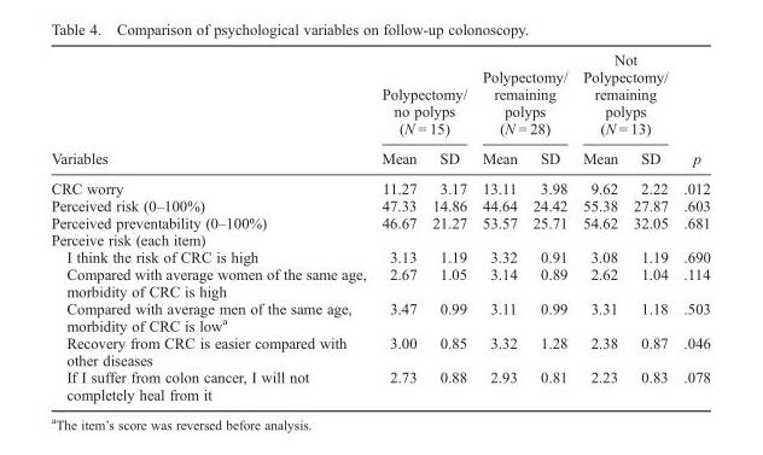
<table><thead><tr><td rowspan="2">Variables</td><td colspan="2">Polypectomy/ no polyps (N = 15)</td><td colspan="2">Polypectomy/ remaining polyps (N = 28)</td><td colspan="2">Not Polypectomy/ remaining polyps (N = 13)</td><td rowspan="2">p</td></tr><tr><td>Mean</td><td>SD</td><td>Mean</td><td>SD</td><td>Mean</td><td>SD</td></tr></thead><tbody><tr><td>CRC worry</td><td>11.27</td><td>3.17</td><td>13.11</td><td>3.98</td><td>9.62</td><td>2.22</td><td>.012</td></tr><tr><td>Perceived risk (0–100%)</td><td>47.33</td><td>14.86</td><td>44.64</td><td>24.42</td><td>55.38</td><td>27.87</td><td>.603</td></tr><tr><td>Perceived preventability (0–100%)</td><td>46.67</td><td>21.27</td><td>53.57</td><td>25.71</td><td>54.62</td><td>32.05</td><td>.681</td></tr><tr><td colspan="8">Perceive risk (each item)</td></tr><tr><td>I think the risk of CRC is high</td><td>3.13</td><td>1.19</td><td>3.32</td><td>0.91</td><td>3.08</td><td>1.19</td><td>.690</td></tr><tr><td>Compared with average women of the same age, morbidity of CRC is high</td><td>2.67</td><td>1.05</td><td>3.14</td><td>0.89</td><td>2.62</td><td>1.04</td><td>.114</td></tr><tr><td>Compared with average men of the same age, morbidity of CRC is low<sup>a</sup></td><td>3.47</td><td>0.99</td><td>3.11</td><td>0.99</td><td>3.31</td><td>1.18</td><td>.503</td></tr><tr><td>Recovery from CRC is easier compared with other diseases</td><td>3.00</td><td>0.85</td><td>3.32</td><td>1.28</td><td>2.38</td><td>0.87</td><td>.046</td></tr><tr><td>If I suffer from colon cancer, I will not completely heal from it</td><td>2.73</td><td>0.88</td><td>2.93</td><td>0.81</td><td>2.23</td><td>0.83</td><td>.078</td></tr></tbody></table>